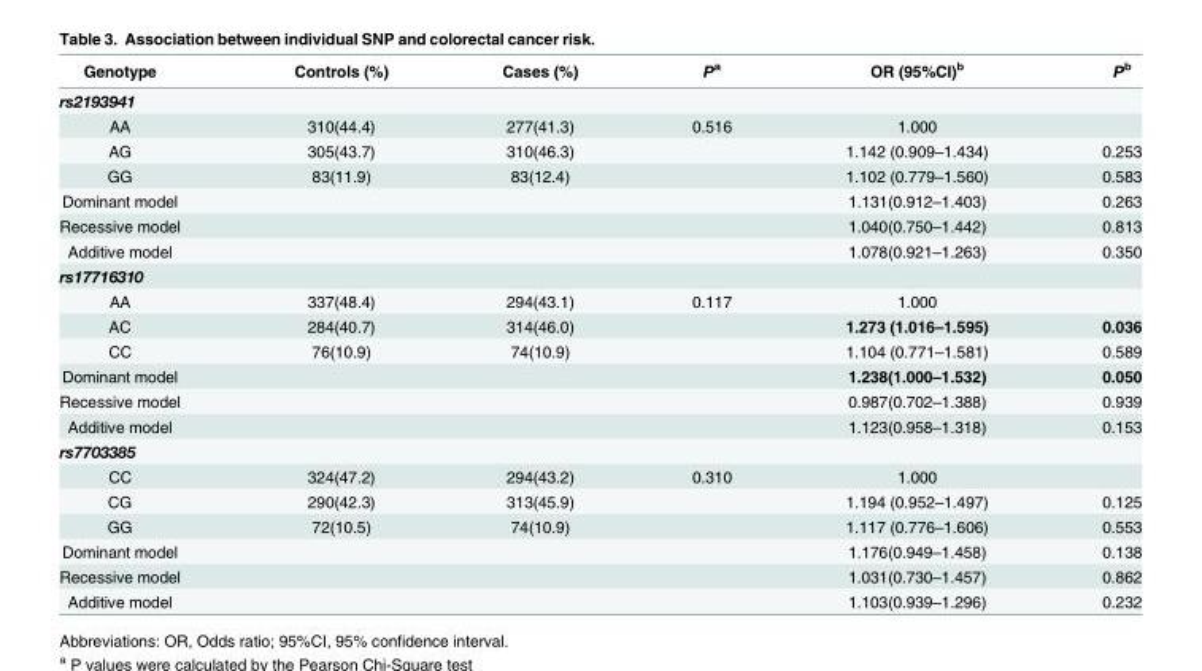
<table><thead><tr><td>Genotype</td><td>Controls (%)</td><td>Cases (%)</td><td>P<sup>a</sup></td><td>OR (95%CI)<sup>b</sup></td><td>P<sup>b</sup></td></tr></thead><tbody><tr><td colspan="6">rs2193941</td></tr><tr><td>AA</td><td>310(44.4)</td><td>277(41.3)</td><td>0.516</td><td>1.000</td><td></td></tr><tr><td>AG</td><td>305(43.7)</td><td>310(46.3)</td><td></td><td>1.142 (0.909–1.434)</td><td>0.253</td></tr><tr><td>GG</td><td>83(11.9)</td><td>83(12.4)</td><td></td><td>1.102 (0.779–1.560)</td><td>0.583</td></tr><tr><td>Dominant model</td><td></td><td></td><td></td><td>1.131(0.912–1.403)</td><td>0.263</td></tr><tr><td>Recessive model</td><td></td><td></td><td></td><td>1.040(0.750–1.442)</td><td>0.813</td></tr><tr><td>Additive model</td><td></td><td></td><td></td><td>1.078(0.921–1.263)</td><td>0.350</td></tr><tr><td colspan="6">rs17716310</td></tr><tr><td>AA</td><td>337(48.4)</td><td>294(43.1)</td><td>0.117</td><td>1.000</td><td></td></tr><tr><td>AC</td><td>284(40.7)</td><td>314(46.0)</td><td></td><td>1.273 (1.016–1.595)</td><td>0.036</td></tr><tr><td>CC</td><td>76(10.9)</td><td>74(10.9)</td><td></td><td>1.104 (0.771–1.581)</td><td>0.589</td></tr><tr><td>Dominant model</td><td></td><td></td><td></td><td>1.238(1.000–1.532)</td><td>0.050</td></tr><tr><td>Recessive model</td><td></td><td></td><td></td><td>0.987(0.702–1.388)</td><td>0.939</td></tr><tr><td>Additive model</td><td></td><td></td><td></td><td>1.123(0.958–1.318)</td><td>0.153</td></tr><tr><td colspan="6">rs7703385</td></tr><tr><td>CC</td><td>324(47.2)</td><td>294(43.2)</td><td>0.310</td><td>1.000</td><td></td></tr><tr><td>CG</td><td>290(42.3)</td><td>313(45.9)</td><td></td><td>1.194 (0.952–1.497)</td><td>0.125</td></tr><tr><td>GG</td><td>72(10.5)</td><td>74(10.9)</td><td></td><td>1.117 (0.776–1.606)</td><td>0.553</td></tr><tr><td>Dominant model</td><td></td><td></td><td></td><td>1.176(0.949–1.458)</td><td>0.138</td></tr><tr><td>Recessive model</td><td></td><td></td><td></td><td>1.031(0.730–1.457)</td><td>0.862</td></tr><tr><td>Additive model</td><td></td><td></td><td></td><td>1.103(0.939–1.296)</td><td>0.232</td></tr></tbody></table>